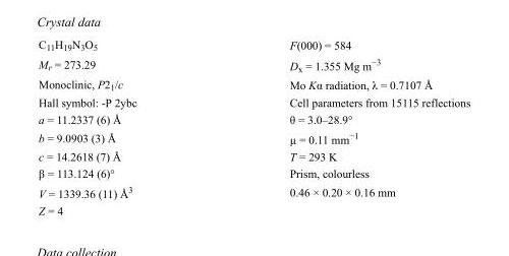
<table><tbody><tr><td>C<sub>11</sub>H<sub>19</sub>N<sub>3</sub>O<sub>5</sub></td><td>F(000) = 584</td></tr><tr><td>M<sub>r</sub> = 273.29</td><td>D<sub>x</sub> = 1.355 Mg m<sup>−3</sup></td></tr><tr><td>Monoclinic, P2<sub>1</sub>/c</td><td>Mo Kα radiation, λ = 0.7107 Å</td></tr><tr><td>Hall symbol: -P 2ybc</td><td>Cell parameters from 15115 reflections</td></tr><tr><td>a = 11.2337 (6) Å</td><td>θ = 3.0–28.9°</td></tr><tr><td>b = 9.0903 (3) Å</td><td>µ = 0.11 mm<sup>−1</sup></td></tr><tr><td>c = 14.2618 (7) Å</td><td>T = 293 K</td></tr><tr><td>β = 113.124 (6)°</td><td>Prism, colourless</td></tr><tr><td>V = 1339.36 (11) Å<sup>3</sup></td><td>0.46 × 0.20 × 0.16 mm</td></tr><tr><td>Z = 4</td><td></td></tr></tbody></table>